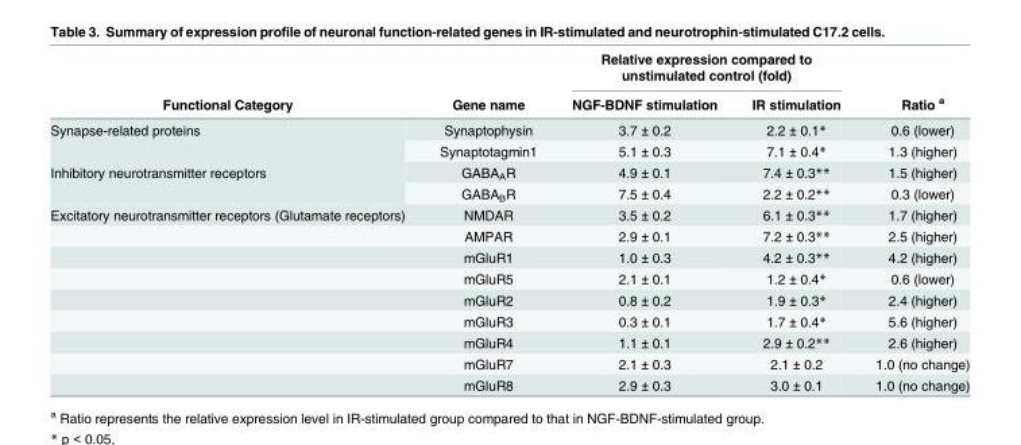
<table><thead><tr><td rowspan="2">Functional Category</td><td rowspan="2">Gene name</td><td colspan="2">Relative expression compared to unstimulated control (fold)</td><td rowspan="2">Ratio <sup>a</sup></td></tr><tr><td>NGF-BDNF stimulation</td><td>IR stimulation</td></tr></thead><tbody><tr><td rowspan="2">Synapse-related proteins</td><td>Synaptophysin</td><td>3.7 ± 0.2</td><td>2.2 ± 0.1*</td><td>0.6 (lower)</td></tr><tr><td>Synaptotagmin1</td><td>5.1 ± 0.3</td><td>7.1 ± 0.4*</td><td>1.3 (higher)</td></tr><tr><td rowspan="2">Inhibitory neurotransmitter receptors</td><td>GABA<sub>A</sub>R</td><td>4.9 ± 0.1</td><td>7.4 ± 0.3**</td><td>1.5 (higher)</td></tr><tr><td>GABA<sub>B</sub>R</td><td>7.5 ± 0.4</td><td>2.2 ± 0.2**</td><td>0.3 (lower)</td></tr><tr><td rowspan="9">Excitatory neurotransmitter receptors (Glutamate receptors)</td><td>NMDAR</td><td>3.5 ± 0.2</td><td>6.1 ± 0.3**</td><td>1.7 (higher)</td></tr><tr><td>AMPAR</td><td>2.9 ± 0.1</td><td>7.2 ± 0.3**</td><td>2.5 (higher)</td></tr><tr><td>mGluR1</td><td>1.0 ± 0.3</td><td>4.2 ± 0.3**</td><td>4.2 (higher)</td></tr><tr><td>mGluR5</td><td>2.1 ± 0.1</td><td>1.2 ± 0.4*</td><td>0.6 (lower)</td></tr><tr><td>mGluR2</td><td>0.8 ± 0.2</td><td>1.9 ± 0.3*</td><td>2.4 (higher)</td></tr><tr><td>mGluR3</td><td>0.3 ± 0.1</td><td>1.7 ± 0.4*</td><td>5.6 (higher)</td></tr><tr><td>mGluR4</td><td>1.1 ± 0.1</td><td>2.9 ± 0.2**</td><td>2.6 (higher)</td></tr><tr><td>mGluR7</td><td>2.1 ± 0.3</td><td>2.1 ± 0.2</td><td>1.0 (no change)</td></tr><tr><td>mGluR8</td><td>2.9 ± 0.3</td><td>3.0 ± 0.1</td><td>1.0 (no change)</td></tr></tbody></table>